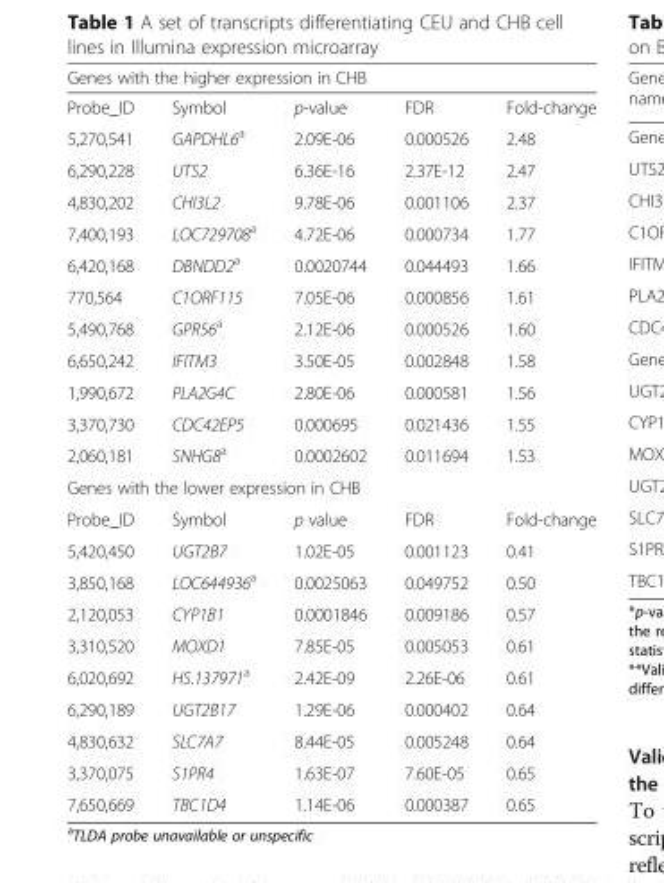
<table><thead><tr><td colspan="5">Genes with the higher expression in CHB</td></tr><tr><td>Probe_ID</td><td>Symbol</td><td>p-value</td><td>FDR</td><td>Fold-change</td></tr></thead><tbody><tr><td>5,270,541</td><td>GAPDHL6<sup>a</sup></td><td>2.09E-06</td><td>0.000526</td><td>2.48</td></tr><tr><td>6,290,228</td><td>UTS2</td><td>6.36E-16</td><td>2.37E-12</td><td>2.47</td></tr><tr><td>4,830,202</td><td>CHI3L2</td><td>9.78E-06</td><td>0.001106</td><td>2.37</td></tr><tr><td>7,400,193</td><td>LOC729708<sup>a</sup></td><td>4.72E-06</td><td>0.000734</td><td>1.77</td></tr><tr><td>6,420,168</td><td>DBNDD2<sup>a</sup></td><td>0.0020744</td><td>0.044493</td><td>1.66</td></tr><tr><td>770,564</td><td>C1ORF115</td><td>7.05E-06</td><td>0.000856</td><td>1.61</td></tr><tr><td>5,490,768</td><td>GPR56<sup>a</sup></td><td>2.12E-06</td><td>0.000526</td><td>1.60</td></tr><tr><td>6,650,242</td><td>IFITM3</td><td>3.50E-05</td><td>0.002848</td><td>1.58</td></tr><tr><td>1,990,672</td><td>PLA2G4C</td><td>2.80E-06</td><td>0.000581</td><td>1.56</td></tr><tr><td>3,370,730</td><td>CDC42EP5</td><td>0.000695</td><td>0.021436</td><td>1.55</td></tr><tr><td>2,060,181</td><td>SNHG8<sup>a</sup></td><td>0.0002602</td><td>0.011694</td><td>1.53</td></tr><tr><td colspan="5">Genes with the lower expression in CHB</td></tr><tr><td>Probe_ID</td><td>Symbol</td><td>p value</td><td>FDR</td><td>Fold-change</td></tr><tr><td>5,420,450</td><td>UGT2B7</td><td>1.02E-05</td><td>0.001123</td><td>0.41</td></tr><tr><td>3,850,168</td><td>LOC644936<sup>a</sup></td><td>0.0025063</td><td>0.049752</td><td>0.50</td></tr><tr><td>2,120,053</td><td>CYP1B1</td><td>0.0001846</td><td>0.009186</td><td>0.57</td></tr><tr><td>3,310,520</td><td>MOXD1</td><td>7.85E-05</td><td>0.005053</td><td>0.61</td></tr><tr><td>6,020,692</td><td>HS.137971<sup>a</sup></td><td>2.42E-09</td><td>2.26E-06</td><td>0.61</td></tr><tr><td>6,290,189</td><td>UGT2B17</td><td>1.29E-06</td><td>0.000402</td><td>0.64</td></tr><tr><td>4,830,632</td><td>SLC7A7</td><td>8.44E-05</td><td>0.005248</td><td>0.64</td></tr><tr><td>3,370,075</td><td>S1PR4</td><td>1.63E-07</td><td>7.60E-05</td><td>0.65</td></tr><tr><td>7,650,669</td><td>TBC1D4</td><td>1.14E-06</td><td>0.000387</td><td>0.65</td></tr></tbody></table>